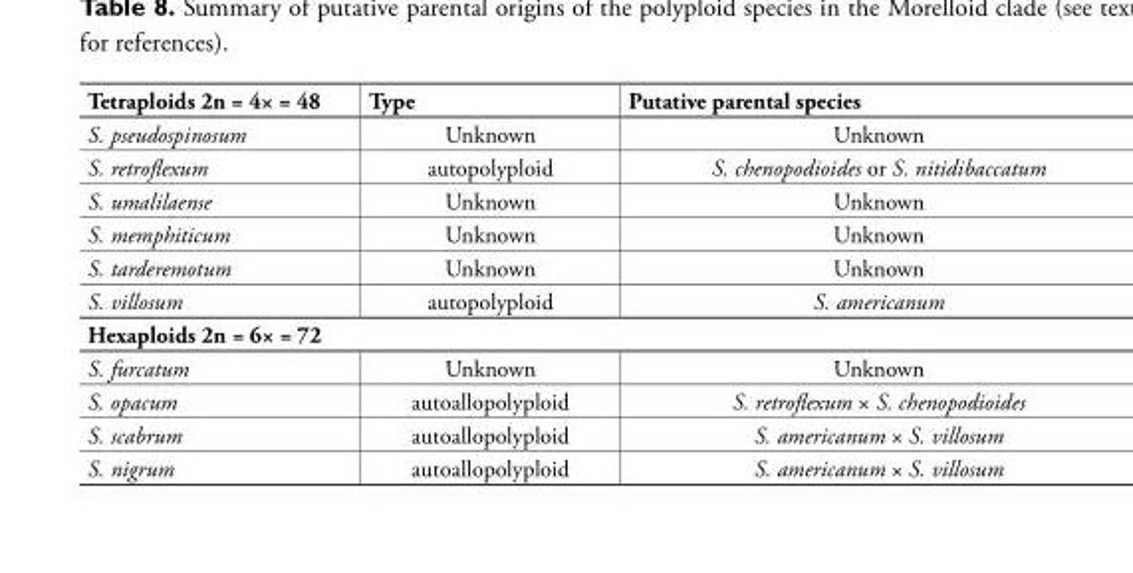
<table><tbody><tr><td>Tetraploids 2n = 4× = 48</td><td>Type</td><td>Putative parental species</td></tr><tr><td>S. pseudospinosum</td><td>Unknown</td><td>Unknown</td></tr><tr><td>S. retroflexum</td><td>autopolyploid</td><td>S. chenopodioides or S. nitidibaccatum</td></tr><tr><td>S. umalilaense</td><td>Unknown</td><td>Unknown</td></tr><tr><td>S. memphiticum</td><td>Unknown</td><td>Unknown</td></tr><tr><td>S. tarderemotum</td><td>Unknown</td><td>Unknown</td></tr><tr><td>S. villosum</td><td>autopolyploid</td><td>S. americanum</td></tr><tr><td colspan="3">Hexaploids 2n = 6× = 72</td></tr><tr><td>S. furcatum</td><td>Unknown</td><td>Unknown</td></tr><tr><td>S. opacum</td><td>autoallopolyploid</td><td>S. retroflexum × S. chenopodioides</td></tr><tr><td>S. scabrum</td><td>autoallopolyploid</td><td>S. americanum × S. villosum</td></tr><tr><td>S. nigrum</td><td>autoallopolyploid</td><td>S. americanum × S. villosum</td></tr></tbody></table>